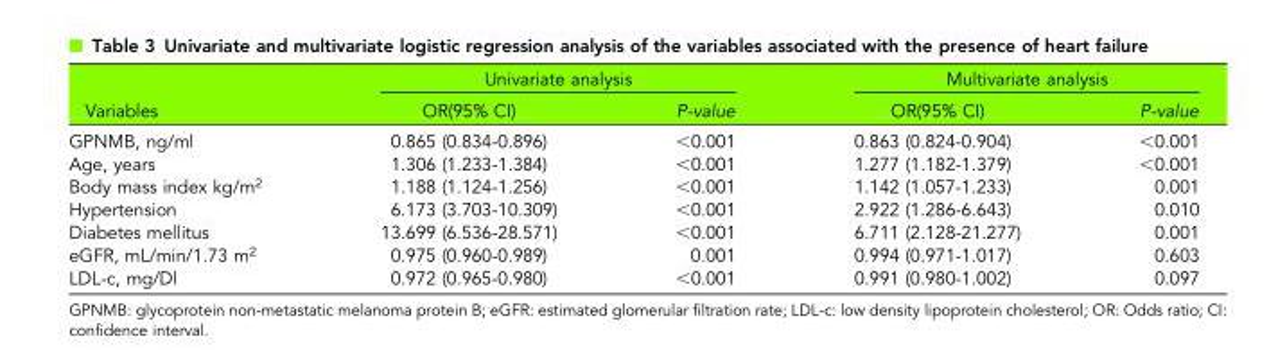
<table><thead><tr><td rowspan="2">Variables</td><td colspan="2">Univariate analysis</td><td colspan="2">Multivariate analysis</td></tr><tr><td>OR(95% CI)</td><td>P-value</td><td>OR(95% CI)</td><td>P-value</td></tr></thead><tbody><tr><td>GPNMB, ng/ml</td><td>0.865 (0.834-0.896)</td><td>&lt;0.001</td><td>0.863 (0.824-0.904)</td><td>&lt;0.001</td></tr><tr><td>Age, years</td><td>1.306 (1.233-1.384)</td><td>&lt;0.001</td><td>1.277 (1.182-1.379)</td><td>&lt;0.001</td></tr><tr><td>Body mass index kg/m<sup>2</sup></td><td>1.188 (1.124-1.256)</td><td>&lt;0.001</td><td>1.142 (1.057-1.233)</td><td>0.001</td></tr><tr><td>Hypertension</td><td>6.173 (3.703-10.309)</td><td>&lt;0.001</td><td>2.922 (1.286-6.643)</td><td>0.010</td></tr><tr><td>Diabetes mellitus</td><td>13.699 (6.536-28.571)</td><td>&lt;0.001</td><td>6.711 (2.128-21.277)</td><td>0.001</td></tr><tr><td>eGFR, mL/min/1.73 m<sup>2</sup></td><td>0.975 (0.960-0.989)</td><td>0.001</td><td>0.994 (0.971-1.017)</td><td>0.603</td></tr><tr><td>LDL-c, mg/Dl</td><td>0.972 (0.965-0.980)</td><td>&lt;0.001</td><td>0.991 (0.980-1.002)</td><td>0.097</td></tr></tbody></table>